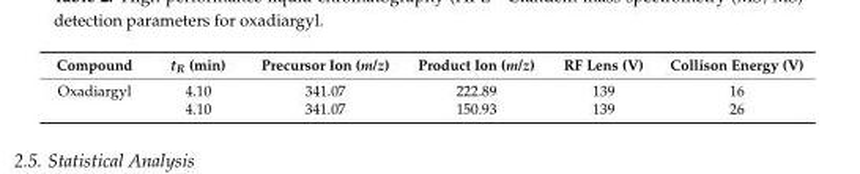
<table><thead><tr><td>Compound</td><td>t<sub>R</sub> (min)</td><td>Precursor Ion (m/z)</td><td>Product Ion (m/z)</td><td>RF Lens (V)</td><td>Collison Energy (V)</td></tr></thead><tbody><tr><td rowspan="2">Oxadiargyl</td><td>4.10</td><td>341.07</td><td>222.89</td><td>139</td><td>16</td></tr><tr><td>4.10</td><td>341.07</td><td>150.93</td><td>139</td><td>26</td></tr></tbody></table>